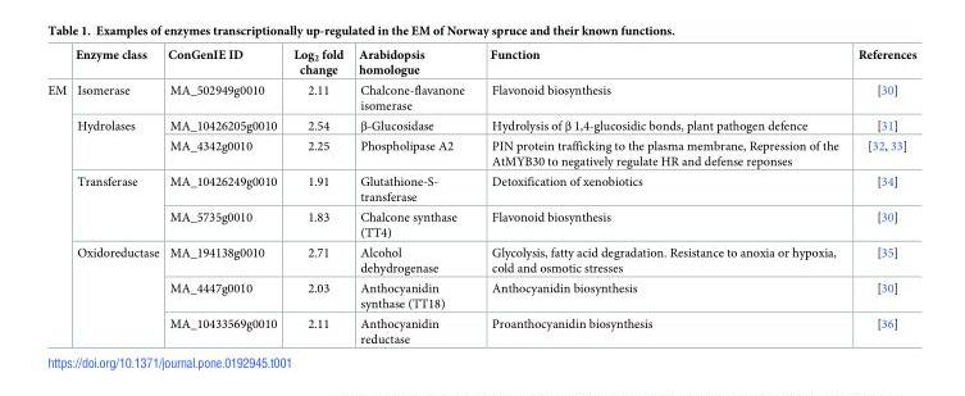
<table><thead><tr><td></td><td>Enzyme class</td><td>ConGenIE ID</td><td>Log<sub>2</sub> fold change</td><td>Arabidopsis homologue</td><td>Function</td><td>References</td></tr></thead><tbody><tr><td rowspan="8">EM</td><td>Isomerase</td><td>MA_502949g0010</td><td>2.11</td><td>Chalcone-flavanone isomerase</td><td>Flavonoid biosynthesis</td><td>[30]</td></tr><tr><td rowspan="2">Hydrolases</td><td>MA_10426205g0010</td><td>2.54</td><td>β-Glucosidase</td><td>Hydrolysis of β 1,4-glucosidic bonds, plant pathogen defence</td><td>[31]</td></tr><tr><td>MA_4342g0010</td><td>2.25</td><td>Phospholipase A2</td><td>PIN protein trafficking to the plasma membrane, Repression of the AtMYB30 to negatively regulate HR and defense reponses</td><td>[32, 33]</td></tr><tr><td rowspan="2">Transferase</td><td>MA_10426249g0010</td><td>1.91</td><td>Glutathione-S- transferase</td><td>Detoxification of xenobiotics</td><td>[34]</td></tr><tr><td>MA_5735g0010</td><td>1.83</td><td>Chalcone synthase (TT4)</td><td>Flavonoid biosynthesis</td><td>[30]</td></tr><tr><td rowspan="3">Oxidoreductase</td><td>MA_194138g0010</td><td>2.71</td><td>Alcohol dehydrogenase</td><td>Glycolysis, fatty acid degradation. Resistance to anoxia or hypoxia, cold and osmotic stresses</td><td>[35]</td></tr><tr><td>MA_4447g0010</td><td>2.03</td><td>Anthocyanidin synthase (TT18)</td><td>Anthocyanidin biosynthesis</td><td>[30]</td></tr><tr><td>MA_10433569g0010</td><td>2.11</td><td>Anthocyanidin reductase</td><td>Proanthocyanidin biosynthesis</td><td>[36]</td></tr></tbody></table>